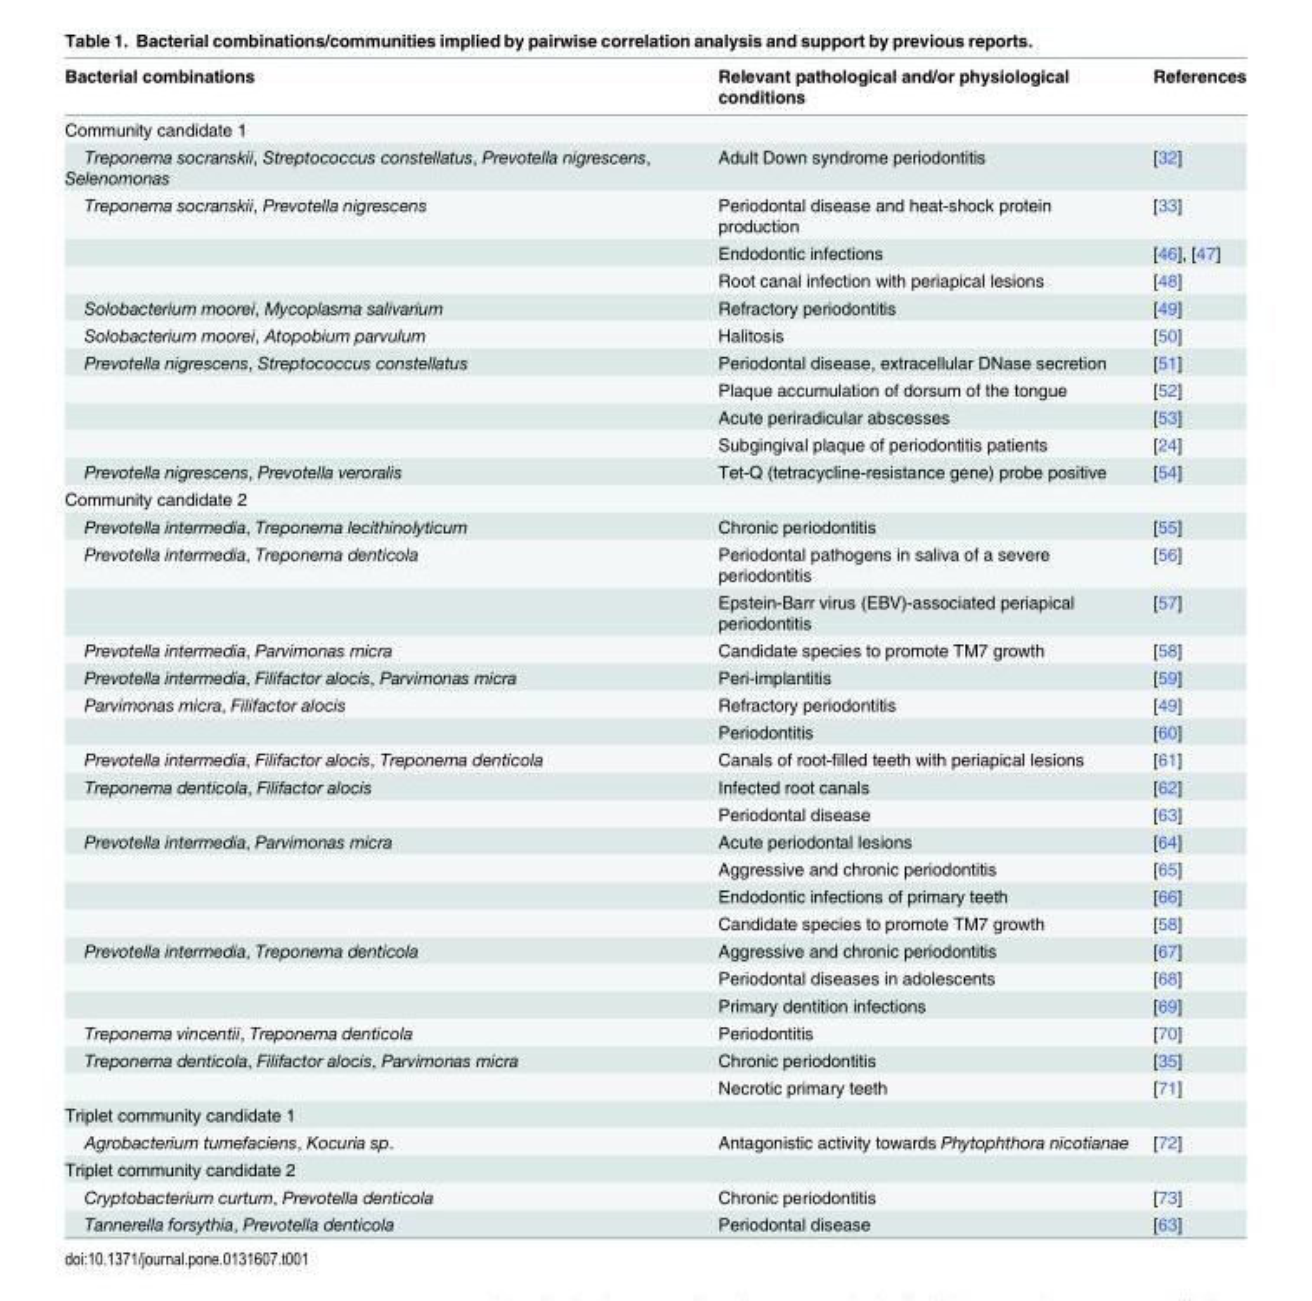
<table><thead><tr><td>Bacterial combinations</td><td>Relevant pathological and/or physiological conditions</td><td>References</td></tr></thead><tbody><tr><td colspan="3">Community candidate 1</td></tr><tr><td>Treponema socranskii, Streptococcus constellatus, Prevotella nigrescens, Selenomonas</td><td>Adult Down syndrome periodontitis</td><td>[32]</td></tr><tr><td rowspan="3">Treponema socranskii, Prevotella nigrescens</td><td>Periodontal disease and heat-shock protein production</td><td>[33]</td></tr><tr><td>Endodontic infections</td><td>[46], [47]</td></tr><tr><td>Root canal infection with periapical lesions</td><td>[48]</td></tr><tr><td>Solobacterium moorei, Mycoplasma salivarium</td><td>Refractory periodontitis</td><td>[49]</td></tr><tr><td>Solobacterium moorei, Atopobium parvulum</td><td>Halitosis</td><td>[50]</td></tr><tr><td rowspan="4">Prevotella nigrescens, Streptococcus constellatus</td><td>Periodontal disease, extracellular DNase secretion</td><td>[51]</td></tr><tr><td>Plaque accumulation of dorsum of the tongue</td><td>[52]</td></tr><tr><td>Acute periradicular abscesses</td><td>[53]</td></tr><tr><td>Subgingival plaque of periodontitis patients</td><td>[24]</td></tr><tr><td>Prevotella nigrescens, Prevotella veroralis</td><td>Tet-Q (tetracycline-resistance gene) probe positive</td><td>[54]</td></tr><tr><td colspan="3">Community candidate 2</td></tr><tr><td>Prevotella intermedia, Treponema lecithinolyticum</td><td>Chronic periodontitis</td><td>[55]</td></tr><tr><td rowspan="2">Prevotella intermedia, Treponema denticola</td><td>Periodontal pathogens in saliva of a severe periodontitis</td><td>[56]</td></tr><tr><td>Epstein-Barr virus (EBV)-associated periapical periodontitis</td><td>[57]</td></tr><tr><td>Prevotella intermedia, Parvimonas micra</td><td>Candidate species to promote TM7 growth</td><td>[58]</td></tr><tr><td>Prevotella intermedia, Filifactor alocis, Parvimonas micra</td><td>Peri-implantitis</td><td>[59]</td></tr><tr><td rowspan="2">Parvimonas micra, Filifactor alocis</td><td>Refractory periodontitis</td><td>[49]</td></tr><tr><td>Periodontitis</td><td>[60]</td></tr><tr><td>Prevotella intermedia, Filifactor alocis, Treponema denticola</td><td>Canals of root-filled teeth with periapical lesions</td><td>[61]</td></tr><tr><td rowspan="2">Treponema denticola, Filifactor alocis</td><td>Infected root canals</td><td>[62]</td></tr><tr><td>Periodontal disease</td><td>[63]</td></tr><tr><td rowspan="4">Prevotella intermedia, Parvimonas micra</td><td>Acute periodontal lesions</td><td>[64]</td></tr><tr><td>Aggressive and chronic periodontitis</td><td>[65]</td></tr><tr><td>Endodontic infections of primary teeth</td><td>[66]</td></tr><tr><td>Candidate species to promote TM7 growth</td><td>[58]</td></tr><tr><td rowspan="3">Prevotella intermedia, Treponema denticola</td><td>Aggressive and chronic periodontitis</td><td>[67]</td></tr><tr><td>Periodontal diseases in adolescents</td><td>[68]</td></tr><tr><td>Primary dentition infections</td><td>[69]</td></tr><tr><td>Treponema vincentii, Treponema denticola</td><td>Periodontitis</td><td>[70]</td></tr><tr><td rowspan="2">Treponema denticola, Filifactor alocis, Parvimonas micra</td><td>Chronic periodontitis</td><td>[35]</td></tr><tr><td>Necrotic primary teeth</td><td>[71]</td></tr><tr><td colspan="3">Triplet community candidate 1</td></tr><tr><td>Agrobacterium tumefaciens, Kocuria sp.</td><td>Antagonistic activity towards Phytophthora nicotianae</td><td>[72]</td></tr><tr><td colspan="3">Triplet community candidate 2</td></tr><tr><td>Cryptobacterium curtum, Prevotella denticola</td><td>Chronic periodontitis</td><td>[73]</td></tr><tr><td>Tannerella forsythia, Prevotella denticola</td><td>Periodontal disease</td><td>[63]</td></tr></tbody></table>